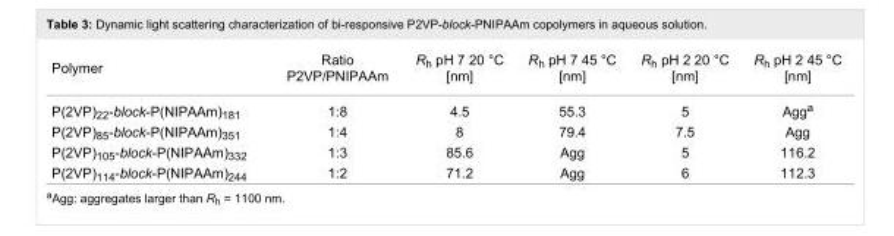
<table><tbody><tr><td>Polymer</td><td>Ratio P2VP/PNIPAAm</td><td>R<sub>h</sub> pH 7 20 °C [nm]</td><td>R<sub>h</sub> pH 7 45 °C [nm]</td><td>R<sub>h</sub> pH 2 20 °C [nm]</td><td>R<sub>h</sub> pH 2 45 °C [nm]</td></tr><tr><td>P(2VP)<sub>22</sub>-block-P(NIPAAm)<sub>181</sub></td><td>1:8</td><td>4.5</td><td>55.3</td><td>5</td><td>Agg<sup>a</sup></td></tr><tr><td>P(2VP)<sub>85</sub>-block-P(NIPAAm)<sub>351</sub></td><td>1:4</td><td>8</td><td>79.4</td><td>7.5</td><td>Agg</td></tr><tr><td>P(2VP)<sub>105</sub>-block-P(NIPAAm)<sub>332</sub></td><td>1:3</td><td>85.6</td><td>Agg</td><td>5</td><td>116.2</td></tr><tr><td>P(2VP)<sub>114</sub>-block-P(NIPAAm)<sub>244</sub></td><td>1:2</td><td>71.2</td><td>Agg</td><td>6</td><td>112.3</td></tr></tbody></table>